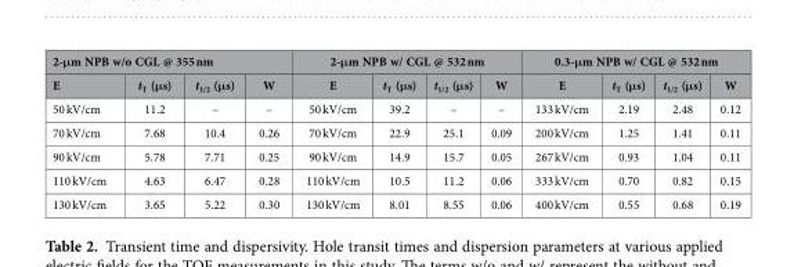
<table><thead><tr><td colspan="4">2-μm NPB w/o CGL @ 355 nm</td><td colspan="4">2-μm NPB w/ CGL @ 532 nm</td><td colspan="4">0.3-μm NPB w/ CGL @ 532 nm</td></tr><tr><td>E</td><td>t<sub>T</sub> (μs)</td><td>t<sub>1/2</sub> (μs)</td><td>W</td><td>E</td><td>t<sub>T</sub> (μs)</td><td>t<sub>1/2</sub> (μs)</td><td>W</td><td>E</td><td>t<sub>T</sub> (μs)</td><td>t<sub>1/2</sub> (μs)</td><td>W</td></tr></thead><tbody><tr><td>50 kV/cm</td><td>11.2</td><td>–</td><td>–</td><td>50 kV/cm</td><td>39.2</td><td>–</td><td>–</td><td>133 kV/cm</td><td>2.19</td><td>2.48</td><td>0.12</td></tr><tr><td>70 kV/cm</td><td>7.68</td><td>10.4</td><td>0.26</td><td>70 kV/cm</td><td>22.9</td><td>25.1</td><td>0.09</td><td>200 kV/cm</td><td>1.25</td><td>1.41</td><td>0.11</td></tr><tr><td>90 kV/cm</td><td>5.78</td><td>7.71</td><td>0.25</td><td>90 kV/cm</td><td>14.9</td><td>15.7</td><td>0.05</td><td>267 kV/cm</td><td>0.93</td><td>1.04</td><td>0.11</td></tr><tr><td>110 kV/cm</td><td>4.63</td><td>6.47</td><td>0.28</td><td>110 kV/cm</td><td>10.5</td><td>11.2</td><td>0.06</td><td>333 kV/cm</td><td>0.70</td><td>0.82</td><td>0.15</td></tr><tr><td>130 kV/cm</td><td>3.65</td><td>5.22</td><td>0.30</td><td>130 kV/cm</td><td>8.01</td><td>8.55</td><td>0.06</td><td>400 kV/cm</td><td>0.55</td><td>0.68</td><td>0.19</td></tr></tbody></table>